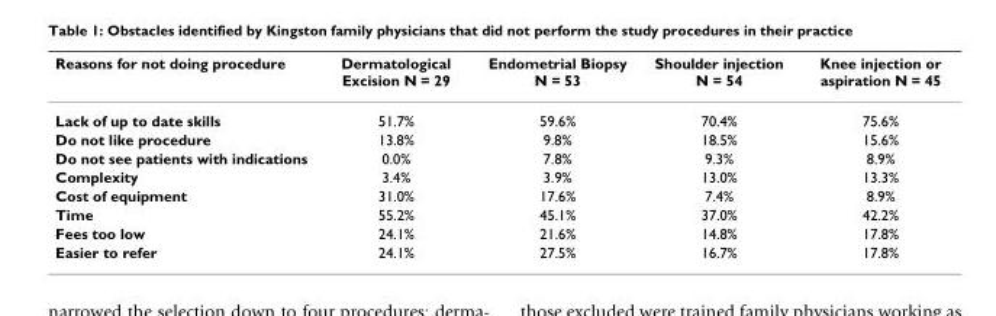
<table><thead><tr><td>Reasons for not doing procedure</td><td>Dermatological Excision N = 29</td><td>Endometrial Biopsy N = 53</td><td>Shoulder injection N = 54</td><td>Knee injection or aspiration N = 45</td></tr></thead><tbody><tr><td>Lack of up to date skills</td><td>51.7%</td><td>59.6%</td><td>70.4%</td><td>75.6%</td></tr><tr><td>Do not like procedure</td><td>13.8%</td><td>9.8%</td><td>18.5%</td><td>15.6%</td></tr><tr><td>Do not see patients with indications</td><td>0.0%</td><td>7.8%</td><td>9.3%</td><td>8.9%</td></tr><tr><td>Complexity</td><td>3.4%</td><td>3.9%</td><td>13.0%</td><td>13.3%</td></tr><tr><td>Cost of equipment</td><td>31.0%</td><td>17.6%</td><td>7.4%</td><td>8.9%</td></tr><tr><td>Time</td><td>55.2%</td><td>45.1%</td><td>37.0%</td><td>42.2%</td></tr><tr><td>Fees too low</td><td>24.1%</td><td>21.6%</td><td>14.8%</td><td>17.8%</td></tr><tr><td>Easier to refer</td><td>24.1%</td><td>27.5%</td><td>16.7%</td><td>17.8%</td></tr></tbody></table>